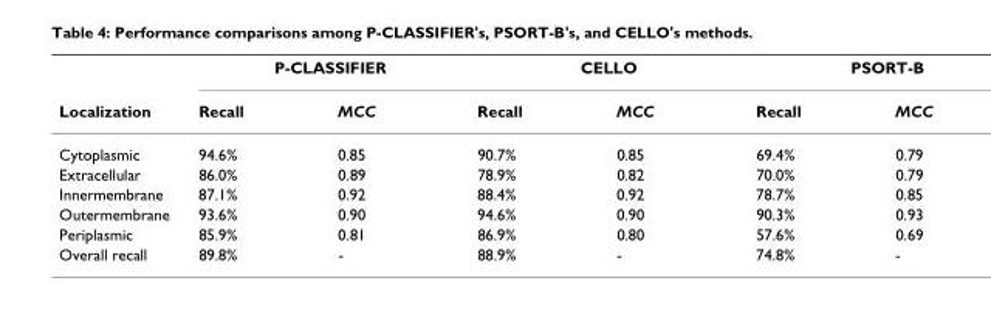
<table><thead><tr><td rowspan="2">Localization</td><td colspan="2">P-CLASSIFIER</td><td colspan="2">CELLO</td><td colspan="2">PSORT-B</td></tr><tr><td>Recall</td><td>MCC</td><td>Recall</td><td>MCC</td><td>Recall</td><td>MCC</td></tr></thead><tbody><tr><td>Cytoplasmic</td><td>94.6%</td><td>0.85</td><td>90.7%</td><td>0.85</td><td>69.4%</td><td>0.79</td></tr><tr><td>Extracellular</td><td>86.0%</td><td>0.89</td><td>78.9%</td><td>0.82</td><td>70.0%</td><td>0.79</td></tr><tr><td>Innermembrane</td><td>87.1%</td><td>0.92</td><td>88.4%</td><td>0.92</td><td>78.7%</td><td>0.85</td></tr><tr><td>Outermembrane</td><td>93.6%</td><td>0.90</td><td>94.6%</td><td>0.90</td><td>90.3%</td><td>0.93</td></tr><tr><td>Periplasmic</td><td>85.9%</td><td>0.81</td><td>86.9%</td><td>0.80</td><td>57.6%</td><td>0.69</td></tr><tr><td>Overall recall</td><td>89.8%</td><td>-</td><td>88.9%</td><td>-</td><td>74.8%</td><td>-</td></tr></tbody></table>